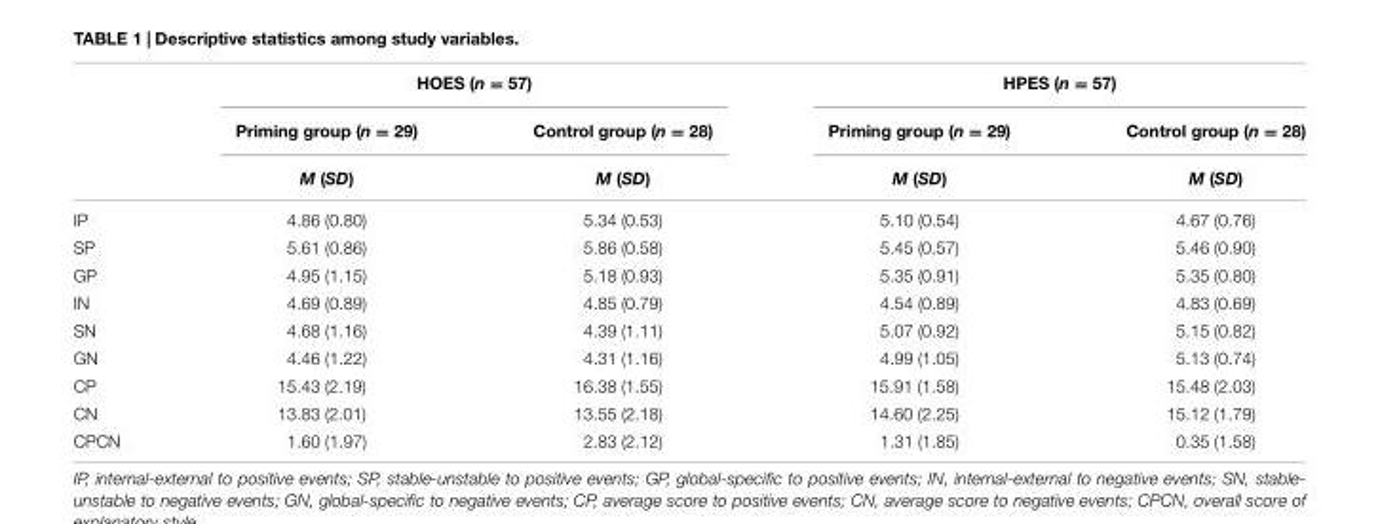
<table><thead><tr><td rowspan="3"></td><td colspan="2">HOES (n = 57)</td><td colspan="2">HPES (n = 57)</td></tr><tr><td rowspan="2">Priming group (n = 29) M (SD)</td><td rowspan="2">Control group (n = 28) M (SD)</td><td rowspan="2">Priming group (n = 29) M (SD)</td><td rowspan="2">Control group (n = 28) M (SD)</td></tr><tr></tr></thead><tbody><tr><td>IP</td><td>4.86 (0.80)</td><td>5.34 (0.53)</td><td>5.10 (0.54)</td><td>4.67 (0.76)</td></tr><tr><td>SP</td><td>5.61 (0.86)</td><td>5.86 (0.58)</td><td>5.45 (0.57)</td><td>5.46 (0.90)</td></tr><tr><td>GP</td><td>4.95 (1.15)</td><td>5.18 (0.93)</td><td>5.35 (0.91)</td><td>5.35 (0.80)</td></tr><tr><td>IN</td><td>4.69 (0.89)</td><td>4.85 (0.79)</td><td>4.54 (0.89)</td><td>4.83 (0.69)</td></tr><tr><td>SN</td><td>4.68 (1.16)</td><td>4.39 (1.11)</td><td>5.07 (0.92)</td><td>5.15 (0.82)</td></tr><tr><td>GN</td><td>4.46 (1.22)</td><td>4.31 (1.16)</td><td>4.99 (1.05)</td><td>5.13 (0.74)</td></tr><tr><td>CP</td><td>15.43 (2.19)</td><td>16.38 (1.55)</td><td>15.91 (1.58)</td><td>15.48 (2.03)</td></tr><tr><td>CN</td><td>13.83 (2.01)</td><td>13.55 (2.18)</td><td>14.60 (2.25)</td><td>15.12 (1.79)</td></tr><tr><td>CPCN</td><td>1.60 (1.97)</td><td>2.83 (2.12)</td><td>1.31 (1.85)</td><td>0.35 (1.58)</td></tr></tbody></table>